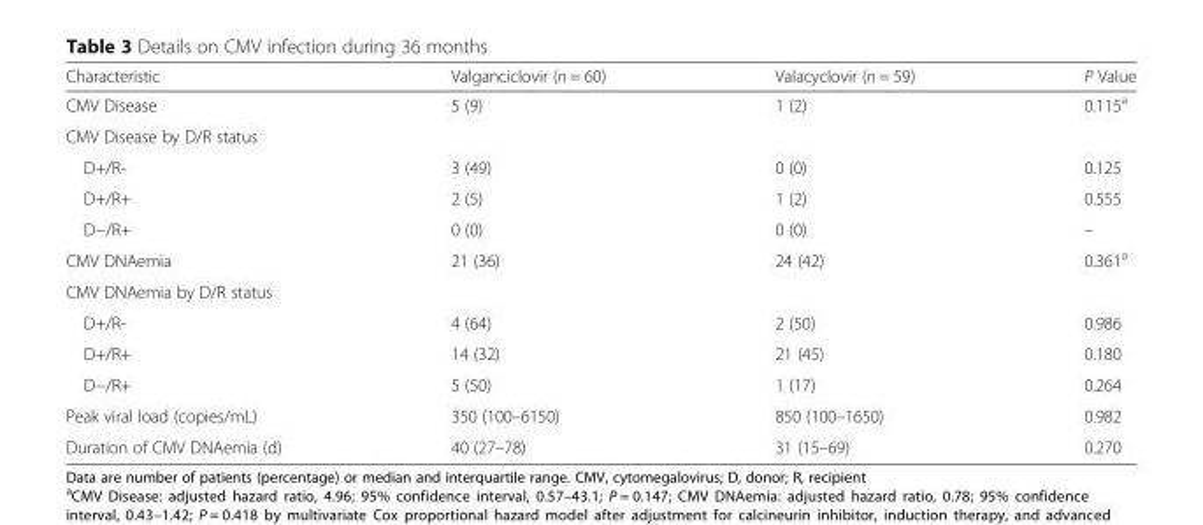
<table><thead><tr><td>Characteristic</td><td>Valganciclovir (n = 60)</td><td>Valacyclovir (n = 59)</td><td>P Value</td></tr></thead><tbody><tr><td>CMV Disease</td><td>5 (9)</td><td>1 (2)</td><td>0.115<sup>a</sup></td></tr><tr><td colspan="4">CMV Disease by D/R status</td></tr><tr><td>D+/R-</td><td>3 (49)</td><td>0 (0)</td><td>0.125</td></tr><tr><td>D+/R+</td><td>2 (5)</td><td>1 (2)</td><td>0.555</td></tr><tr><td>D−/R+</td><td>0 (0)</td><td>0 (0)</td><td>–</td></tr><tr><td>CMV DNAemia</td><td>21 (36)</td><td>24 (42)</td><td>0.361<sup>a</sup></td></tr><tr><td colspan="4">CMV DNAemia by D/R status</td></tr><tr><td>D+/R-</td><td>4 (64)</td><td>2 (50)</td><td>0.986</td></tr><tr><td>D+/R+</td><td>14 (32)</td><td>21 (45)</td><td>0.180</td></tr><tr><td>D−/R+</td><td>5 (50)</td><td>1 (17)</td><td>0.264</td></tr><tr><td>Peak viral load (copies/mL)</td><td>350 (100–6150)</td><td>850 (100–1650)</td><td>0.982</td></tr><tr><td>Duration of CMV DNAemia (d)</td><td>40 (27–78)</td><td>31 (15–69)</td><td>0.270</td></tr></tbody></table>